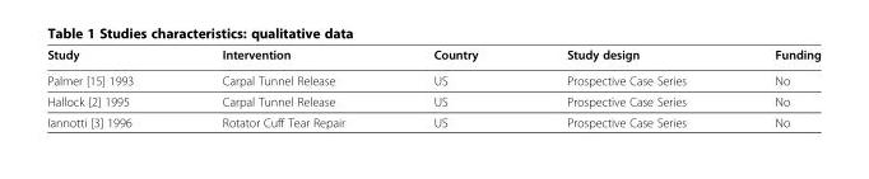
<table><thead><tr><td>Study</td><td>Intervention</td><td>Country</td><td>Study design</td><td>Funding</td></tr></thead><tbody><tr><td>Palmer [15] 1993</td><td>Carpal Tunnel Release</td><td>US</td><td>Prospective Case Series</td><td>No</td></tr><tr><td>Hallock [2] 1995</td><td>Carpal Tunnel Release</td><td>US</td><td>Prospective Case Series</td><td>No</td></tr><tr><td>Iannotti [3] 1996</td><td>Rotator Cuff Tear Repair</td><td>US</td><td>Prospective Case Series</td><td>No</td></tr></tbody></table>